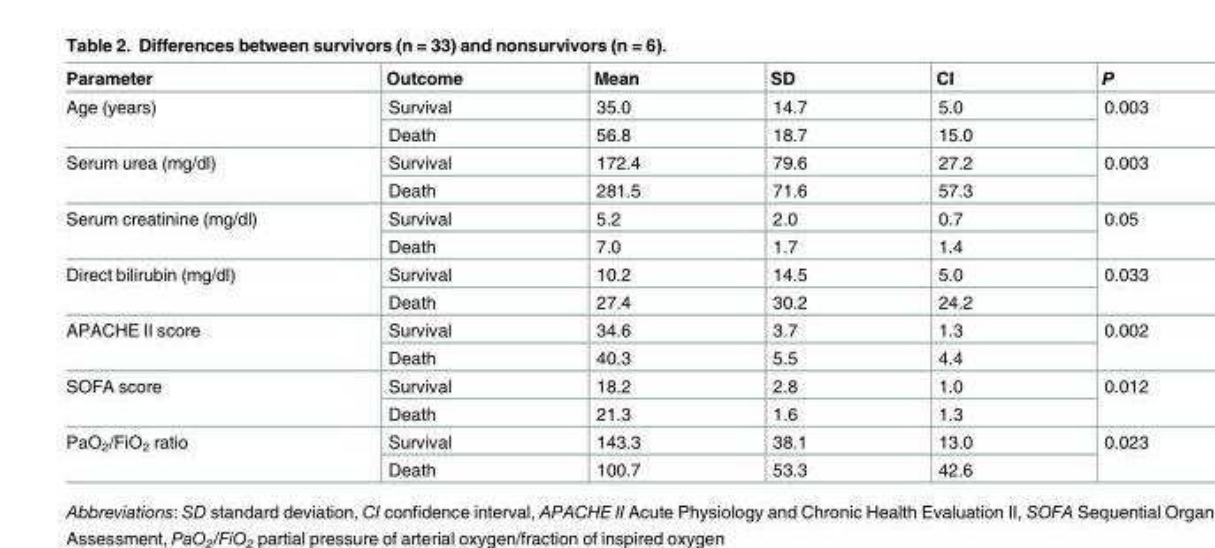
<table><thead><tr><td>Parameter</td><td>Outcome</td><td>Mean</td><td>SD</td><td>CI</td><td>P</td></tr></thead><tbody><tr><td rowspan="2">Age (years)</td><td>Survival</td><td>35.0</td><td>14.7</td><td>5.0</td><td rowspan="2">0.003</td></tr><tr><td>Death</td><td>56.8</td><td>18.7</td><td>15.0</td></tr><tr><td rowspan="2">Serum urea (mg/dl)</td><td>Survival</td><td>172.4</td><td>79.6</td><td>27.2</td><td rowspan="2">0.003</td></tr><tr><td>Death</td><td>281.5</td><td>71.6</td><td>57.3</td></tr><tr><td rowspan="2">Serum creatinine (mg/dl)</td><td>Survival</td><td>5.2</td><td>2.0</td><td>0.7</td><td rowspan="2">0.05</td></tr><tr><td>Death</td><td>7.0</td><td>1.7</td><td>1.4</td></tr><tr><td rowspan="2">Direct bilirubin (mg/dl)</td><td>Survival</td><td>10.2</td><td>14.5</td><td>5.0</td><td rowspan="2">0.033</td></tr><tr><td>Death</td><td>27.4</td><td>30.2</td><td>24.2</td></tr><tr><td rowspan="2">APACHE II score</td><td>Survival</td><td>34.6</td><td>3.7</td><td>1.3</td><td rowspan="2">0.002</td></tr><tr><td>Death</td><td>40.3</td><td>5.5</td><td>4.4</td></tr><tr><td rowspan="2">SOFA score</td><td>Survival</td><td>18.2</td><td>2.8</td><td>1.0</td><td rowspan="2">0.012</td></tr><tr><td>Death</td><td>21.3</td><td>1.6</td><td>1.3</td></tr><tr><td rowspan="2">PaO<sub>2</sub>/FiO<sub>2</sub> ratio</td><td>Survival</td><td>143.3</td><td>38.1</td><td>13.0</td><td rowspan="2">0.023</td></tr><tr><td>Death</td><td>100.7</td><td>53.3</td><td>42.6</td></tr></tbody></table>